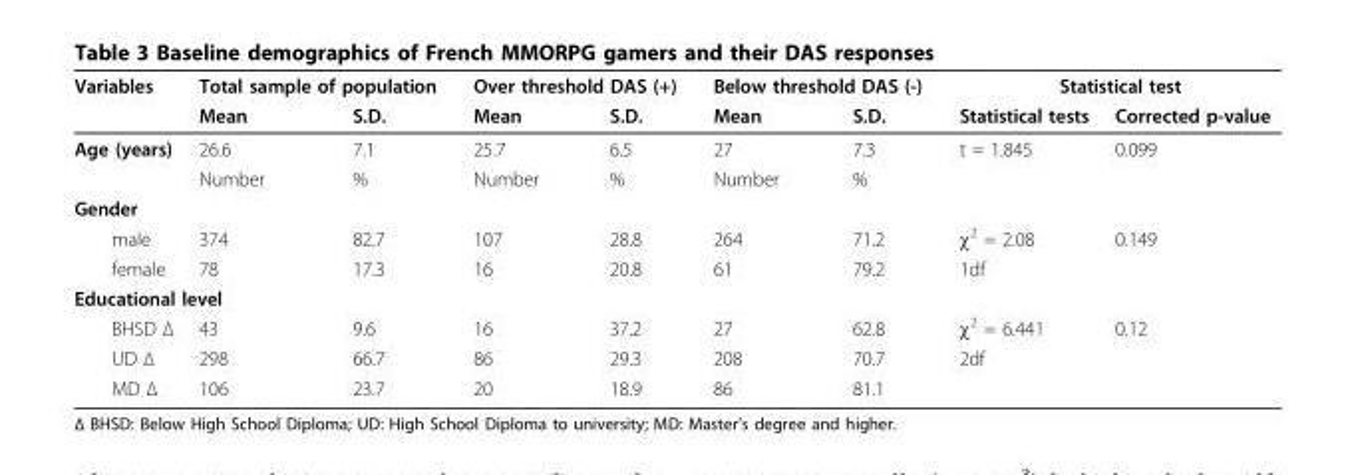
<table><thead><tr><td rowspan="2">Variables</td><td colspan="2">Total sample of population</td><td colspan="2">Over threshold DAS (+)</td><td colspan="2">Below threshold DAS (-)</td><td colspan="2">Statistical test</td></tr><tr><td>Mean</td><td>S.D.</td><td>Mean</td><td>S.D.</td><td>Mean</td><td>S.D.</td><td>Statistical tests</td><td>Corrected p-value</td></tr></thead><tbody><tr><td rowspan="2">Age (years)</td><td>26.6</td><td>7.1</td><td>25.7</td><td>6.5</td><td>27</td><td>7.3</td><td>t = 1.845</td><td>0.099</td></tr><tr><td>Number</td><td>%</td><td>Number</td><td>%</td><td>Number</td><td>%</td><td></td><td></td></tr><tr><td colspan="9">Gender</td></tr><tr><td>male</td><td>374</td><td>82.7</td><td>107</td><td>28.8</td><td>264</td><td>71.2</td><td>χ<sup>2</sup> = 2.08</td><td>0.149</td></tr><tr><td>female</td><td>78</td><td>17.3</td><td>16</td><td>20.8</td><td>61</td><td>79.2</td><td>1df</td><td></td></tr><tr><td colspan="9">Educational level</td></tr><tr><td>BHSD Δ</td><td>43</td><td>9.6</td><td>16</td><td>37.2</td><td>27</td><td>62.8</td><td>χ<sup>2</sup> = 6.441</td><td>0.12</td></tr><tr><td>UD Δ</td><td>298</td><td>66.7</td><td>86</td><td>29.3</td><td>208</td><td>70.7</td><td>2df</td><td></td></tr><tr><td>MD Δ</td><td>106</td><td>23.7</td><td>20</td><td>18.9</td><td>86</td><td>81.1</td><td></td><td></td></tr></tbody></table>